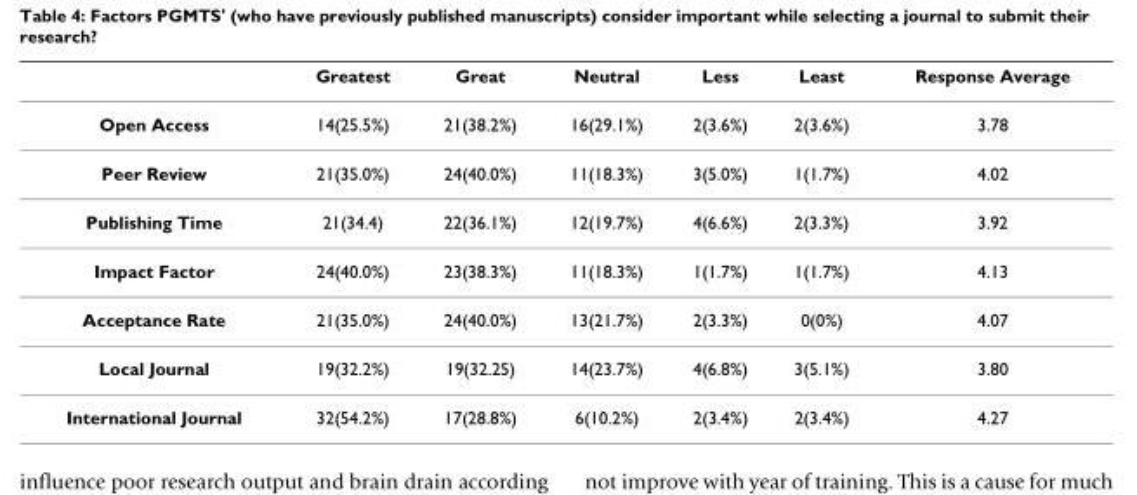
<table><thead><tr><td></td><td>Greatest</td><td>Great</td><td>Neutral</td><td>Less</td><td>Least</td><td>Response Average</td></tr></thead><tbody><tr><td>Open Access</td><td>14(25.5%)</td><td>21(38.2%)</td><td>16(29.1%)</td><td>2(3.6%)</td><td>2(3.6%)</td><td>3.78</td></tr><tr><td>Peer Review</td><td>21(35.0%)</td><td>24(40.0%)</td><td>11(18.3%)</td><td>3(5.0%)</td><td>1(1.7%)</td><td>4.02</td></tr><tr><td>Publishing Time</td><td>21(34.4)</td><td>22(36.1%)</td><td>12(19.7%)</td><td>4(6.6%)</td><td>2(3.3%)</td><td>3.92</td></tr><tr><td>Impact Factor</td><td>24(40.0%)</td><td>23(38.3%)</td><td>11(18.3%)</td><td>1(1.7%)</td><td>1(1.7%)</td><td>4.13</td></tr><tr><td>Acceptance Rate</td><td>21(35.0%)</td><td>24(40.0%)</td><td>13(21.7%)</td><td>2(3.3%)</td><td>0(0%)</td><td>4.07</td></tr><tr><td>Local Journal</td><td>19(32.2%)</td><td>19(32.25)</td><td>14(23.7%)</td><td>4(6.8%)</td><td>3(5.1%)</td><td>3.80</td></tr><tr><td>International Journal</td><td>32(54.2%)</td><td>17(28.8%)</td><td>6(10.2%)</td><td>2(3.4%)</td><td>2(3.4%)</td><td>4.27</td></tr></tbody></table>